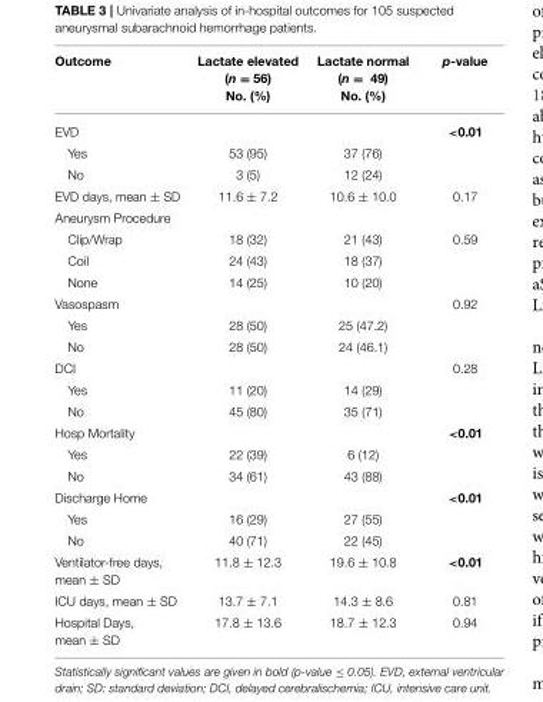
<table><thead><tr><td>Outcome</td><td>Lactate elevated (n = 56) No. (%)</td><td>Lactate normal (n = 49) No. (%)</td><td>p-value</td></tr></thead><tbody><tr><td>EVD</td><td></td><td></td><td>&lt;0.01</td></tr><tr><td>Yes</td><td>53 (95)</td><td>37 (76)</td><td></td></tr><tr><td>No</td><td>3 (5)</td><td>12 (24)</td><td></td></tr><tr><td>EVD days, mean ± SD</td><td>11.6 ± 7.2</td><td>10.6 ± 10.0</td><td>0.17</td></tr><tr><td colspan="4">Aneurysm Procedure</td></tr><tr><td>Clip/Wrap</td><td>18 (32)</td><td>21 (43)</td><td>0.59</td></tr><tr><td>Coil</td><td>24 (43)</td><td>18 (37)</td><td></td></tr><tr><td>None</td><td>14 (25)</td><td>10 (20)</td><td></td></tr><tr><td>Vasospasm</td><td></td><td></td><td>0.92</td></tr><tr><td>Yes</td><td>28 (50)</td><td>25 (47.2)</td><td></td></tr><tr><td>No</td><td>28 (50)</td><td>24 (46.1)</td><td></td></tr><tr><td>DCI</td><td></td><td></td><td>0.28</td></tr><tr><td>Yes</td><td>11 (20)</td><td>14 (29)</td><td></td></tr><tr><td>No</td><td>45 (80)</td><td>35 (71)</td><td></td></tr><tr><td>Hosp Mortality</td><td></td><td></td><td>&lt;0.01</td></tr><tr><td>Yes</td><td>22 (39)</td><td>6 (12)</td><td></td></tr><tr><td>No</td><td>34 (61)</td><td>43 (88)</td><td></td></tr><tr><td>Discharge Home</td><td></td><td></td><td>&lt;0.01</td></tr><tr><td>Yes</td><td>16 (29)</td><td>27 (55)</td><td></td></tr><tr><td>No</td><td>40 (71)</td><td>22 (45)</td><td></td></tr><tr><td>Ventilator-free days, mean ± SD</td><td>11.8 ± 12.3</td><td>19.6 ± 10.8</td><td>&lt;0.01</td></tr><tr><td>ICU days, mean ± SD</td><td>13.7 ± 7.1</td><td>14.3 ± 8.6</td><td>0.81</td></tr><tr><td>Hospital Days, mean ± SD</td><td>17.8 ± 13.6</td><td>18.7 ± 12.3</td><td>0.94</td></tr></tbody></table>